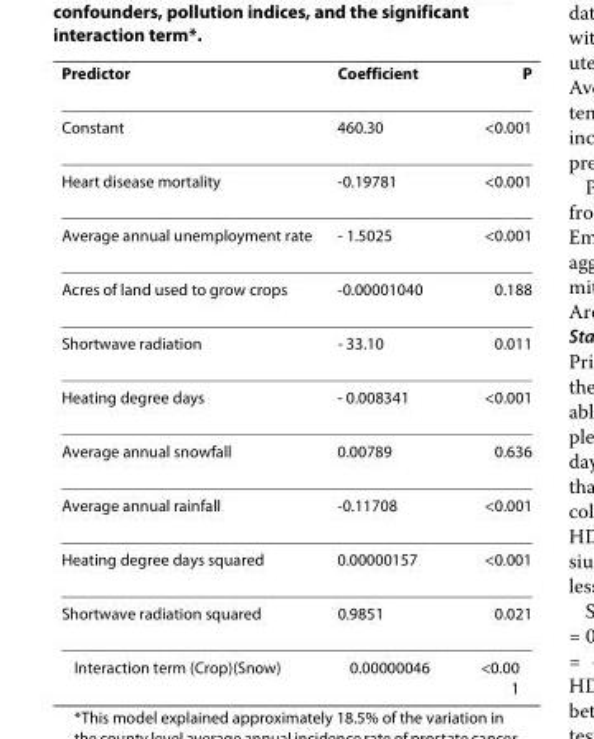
<table><thead><tr><td>Predictor</td><td>Coefficient</td><td>P</td></tr></thead><tbody><tr><td>Constant</td><td>460.30</td><td>&lt;0.001</td></tr><tr><td>Heart disease mortality</td><td>-0.19781</td><td>&lt;0.001</td></tr><tr><td>Average annual unemployment rate</td><td>- 1.5025</td><td>&lt;0.001</td></tr><tr><td>Acres of land used to grow crops</td><td>-0.00001040</td><td>0.188</td></tr><tr><td>Shortwave radiation</td><td>- 33.10</td><td>0.011</td></tr><tr><td>Heating degree days</td><td>- 0.008341</td><td>&lt;0.001</td></tr><tr><td>Average annual snowfall</td><td>0.00789</td><td>0.636</td></tr><tr><td>Average annual rainfall</td><td>-0.11708</td><td>&lt;0.001</td></tr><tr><td>Heating degree days squared</td><td>0.00000157</td><td>&lt;0.001</td></tr><tr><td>Shortwave radiation squared</td><td>0.9851</td><td>0.021</td></tr><tr><td>Interaction term (Crop)(Snow)</td><td>0.00000046</td><td>&lt;0.00</td></tr></tbody></table>